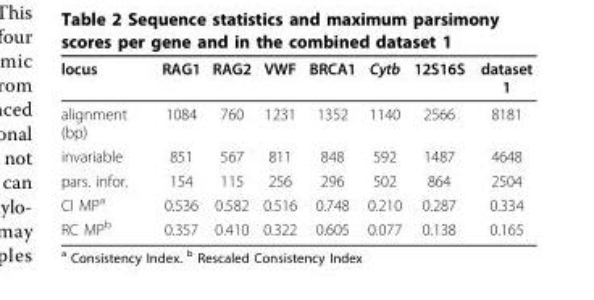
<table><thead><tr><td>locus</td><td>RAG1</td><td>RAG2</td><td>VWF</td><td>BRCA1</td><td>Cytb</td><td>12S16S</td><td>dataset 1</td></tr></thead><tbody><tr><td>alignment (bp)</td><td>1084</td><td>760</td><td>1231</td><td>1352</td><td>1140</td><td>2566</td><td>8181</td></tr><tr><td>invariable</td><td>851</td><td>567</td><td>811</td><td>848</td><td>592</td><td>1487</td><td>4648</td></tr><tr><td>pars. infor.</td><td>154</td><td>115</td><td>256</td><td>296</td><td>502</td><td>864</td><td>2504</td></tr><tr><td>CI MP<sup>a</sup></td><td>0.536</td><td>0.582</td><td>0.516</td><td>0.748</td><td>0.210</td><td>0.287</td><td>0.334</td></tr><tr><td>RC MP<sup>b</sup></td><td>0.357</td><td>0.410</td><td>0.322</td><td>0.605</td><td>0.077</td><td>0.138</td><td>0.165</td></tr></tbody></table>